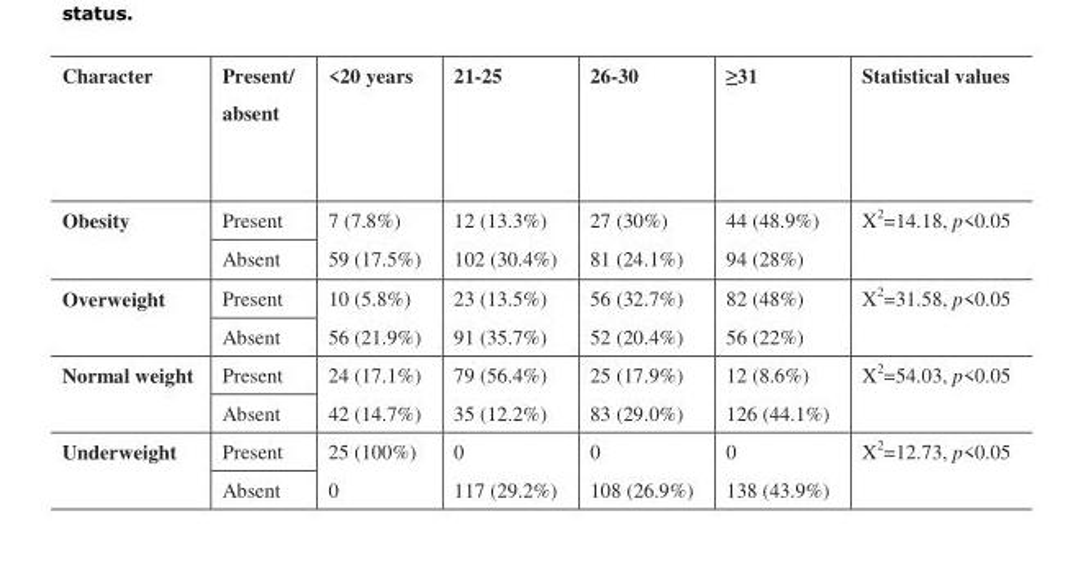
<table><thead><tr><td>Character</td><td>Present/ absent</td><td>&lt;20 years</td><td>21-25</td><td>26-30</td><td>≥31</td><td>Statistical values</td></tr></thead><tbody><tr><td rowspan="2">Obesity</td><td>Present</td><td>7 (7.8%)</td><td>12 (13.3%)</td><td>27 (30%)</td><td>44 (48.9%)</td><td rowspan="2">X<sup>2</sup>=14.18, p&lt;0.05</td></tr><tr><td>Absent</td><td>59 (17.5%)</td><td>102 (30.4%)</td><td>81 (24.1%)</td><td>94 (28%)</td></tr><tr><td rowspan="2">Overweight</td><td>Present</td><td>10 (5.8%)</td><td>23 (13.5%)</td><td>56 (32.7%)</td><td>82 (48%)</td><td rowspan="2">X<sup>2</sup>=31.58, p&lt;0.05</td></tr><tr><td>Absent</td><td>56 (21.9%)</td><td>91 (35.7%)</td><td>52 (20.4%)</td><td>56 (22%)</td></tr><tr><td rowspan="2">Normal weight</td><td>Present</td><td>24 (17.1%)</td><td>79 (56.4%)</td><td>25 (17.9%)</td><td>12 (8.6%)</td><td rowspan="2">X<sup>2</sup>=54.03, p&lt;0.05</td></tr><tr><td>Absent</td><td>42 (14.7%)</td><td>35 (12.2%)</td><td>83 (29.0%)</td><td>126 (44.1%)</td></tr><tr><td rowspan="2">Underweight</td><td>Present</td><td>25 (100%)</td><td>0</td><td>0</td><td>0</td><td rowspan="2">X<sup>2</sup>=12.73, p&lt;0.05</td></tr><tr><td>Absent</td><td>0</td><td>117 (29.2%)</td><td>108 (26.9%)</td><td>138 (43.9%)</td></tr></tbody></table>